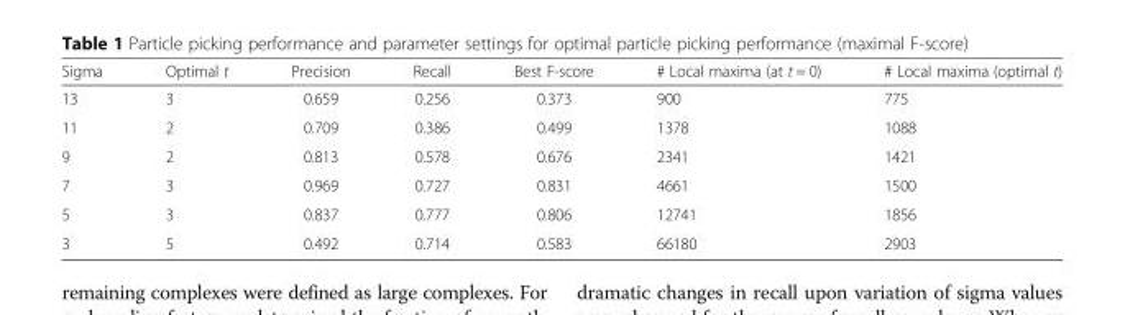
<table><thead><tr><td>Sigma</td><td>Optimal t</td><td>Precision</td><td>Recall</td><td>Best F-score</td><td># Local maxima (at t = 0)</td><td># Local maxima (optimal t)</td></tr></thead><tbody><tr><td>13</td><td>3</td><td>0.659</td><td>0.256</td><td>0.373</td><td>900</td><td>775</td></tr><tr><td>11</td><td>2</td><td>0.709</td><td>0.386</td><td>0.499</td><td>1378</td><td>1088</td></tr><tr><td>9</td><td>2</td><td>0.813</td><td>0.578</td><td>0.676</td><td>2341</td><td>1421</td></tr><tr><td>7</td><td>3</td><td>0.969</td><td>0.727</td><td>0.831</td><td>4661</td><td>1500</td></tr><tr><td>5</td><td>3</td><td>0.837</td><td>0.777</td><td>0.806</td><td>12741</td><td>1856</td></tr><tr><td>3</td><td>5</td><td>0.492</td><td>0.714</td><td>0.583</td><td>66180</td><td>2903</td></tr></tbody></table>